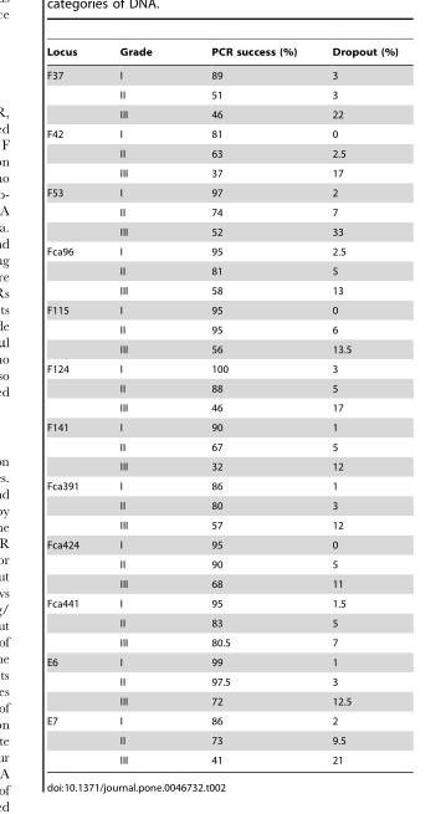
<table><thead><tr><td>Locus</td><td>Grade</td><td>PCR success (%)</td><td>Dropout (%)</td></tr></thead><tbody><tr><td rowspan="3">F37</td><td>I</td><td>89</td><td>3</td></tr><tr><td>II</td><td>51</td><td>3</td></tr><tr><td>III</td><td>46</td><td>22</td></tr><tr><td rowspan="3">F42</td><td>I</td><td>81</td><td>0</td></tr><tr><td>II</td><td>63</td><td>2.5</td></tr><tr><td>III</td><td>37</td><td>17</td></tr><tr><td rowspan="3">F53</td><td>I</td><td>97</td><td>2</td></tr><tr><td>II</td><td>74</td><td>7</td></tr><tr><td>III</td><td>52</td><td>33</td></tr><tr><td rowspan="3">Fca96</td><td>I</td><td>95</td><td>2.5</td></tr><tr><td>II</td><td>81</td><td>5</td></tr><tr><td>III</td><td>58</td><td>13</td></tr><tr><td rowspan="3">F115</td><td>I</td><td>95</td><td>0</td></tr><tr><td>II</td><td>95</td><td>6</td></tr><tr><td>III</td><td>56</td><td>13.5</td></tr><tr><td rowspan="3">F124</td><td>I</td><td>100</td><td>3</td></tr><tr><td>II</td><td>88</td><td>5</td></tr><tr><td>III</td><td>46</td><td>17</td></tr><tr><td rowspan="3">F141</td><td>I</td><td>90</td><td>1</td></tr><tr><td>II</td><td>67</td><td>5</td></tr><tr><td>III</td><td>32</td><td>12</td></tr><tr><td rowspan="3">Fca391</td><td>I</td><td>86</td><td>1</td></tr><tr><td>II</td><td>80</td><td>3</td></tr><tr><td>III</td><td>57</td><td>12</td></tr><tr><td rowspan="3">Fca424</td><td>I</td><td>95</td><td>0</td></tr><tr><td>II</td><td>90</td><td>5</td></tr><tr><td>III</td><td>68</td><td>11</td></tr><tr><td rowspan="3">Fca441</td><td>I</td><td>95</td><td>1.5</td></tr><tr><td>II</td><td>83</td><td>5</td></tr><tr><td>III</td><td>80.5</td><td>7</td></tr><tr><td rowspan="3">E6</td><td>I</td><td>99</td><td>1</td></tr><tr><td>II</td><td>97.5</td><td>3</td></tr><tr><td>III</td><td>72</td><td>12.5</td></tr><tr><td rowspan="3">E7</td><td>I</td><td>86</td><td>2</td></tr><tr><td>II</td><td>73</td><td>9.5</td></tr><tr><td>III</td><td>41</td><td>21</td></tr></tbody></table>